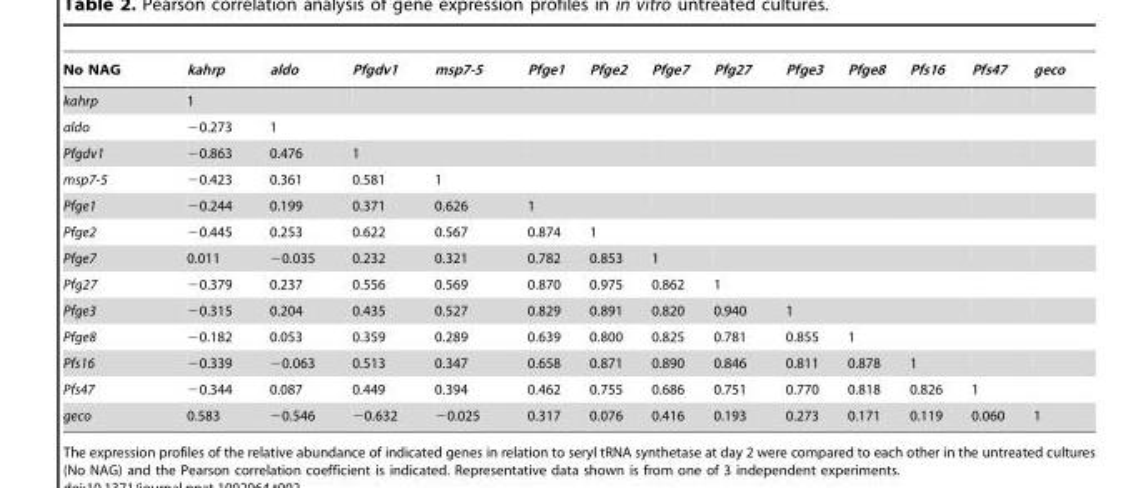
<table><thead><tr><td>No NAG</td><td>kahrp</td><td>aldo</td><td>Pfgdv1</td><td>msp7-5</td><td>Pfge1</td><td>Pfge2</td><td>Pfge7</td><td>Pfg27</td><td>Pfge3</td><td>Pfge8</td><td>Pfs16</td><td>Pfs47</td><td>geco</td></tr></thead><tbody><tr><td>kahrp</td><td>1</td><td></td><td></td><td></td><td></td><td></td><td></td><td></td><td></td><td></td><td></td><td></td><td></td></tr><tr><td>aldo</td><td>−0.273</td><td>1</td><td></td><td></td><td></td><td></td><td></td><td></td><td></td><td></td><td></td><td></td><td></td></tr><tr><td>Pfgdv1</td><td>−0.863</td><td>0.476</td><td>1</td><td></td><td></td><td></td><td></td><td></td><td></td><td></td><td></td><td></td><td></td></tr><tr><td>msp7-5</td><td>−0.423</td><td>0.361</td><td>0.581</td><td>1</td><td></td><td></td><td></td><td></td><td></td><td></td><td></td><td></td><td></td></tr><tr><td>Pfge1</td><td>−0.244</td><td>0.199</td><td>0.371</td><td>0.626</td><td>1</td><td></td><td></td><td></td><td></td><td></td><td></td><td></td><td></td></tr><tr><td>Pfge2</td><td>−0.445</td><td>0.253</td><td>0.622</td><td>0.567</td><td>0.874</td><td>1</td><td></td><td></td><td></td><td></td><td></td><td></td><td></td></tr><tr><td>Pfge7</td><td>0.011</td><td>−0.035</td><td>0.232</td><td>0.321</td><td>0.782</td><td>0.853</td><td>1</td><td></td><td></td><td></td><td></td><td></td><td></td></tr><tr><td>Pfg27</td><td>−0.379</td><td>0.237</td><td>0.556</td><td>0.569</td><td>0.870</td><td>0.975</td><td>0.862</td><td>1</td><td></td><td></td><td></td><td></td><td></td></tr><tr><td>Pfge3</td><td>−0.315</td><td>0.204</td><td>0.435</td><td>0.527</td><td>0.829</td><td>0.891</td><td>0.820</td><td>0.940</td><td>1</td><td></td><td></td><td></td><td></td></tr><tr><td>Pfge8</td><td>−0.182</td><td>0.053</td><td>0.359</td><td>0.289</td><td>0.639</td><td>0.800</td><td>0.825</td><td>0.781</td><td>0.855</td><td>1</td><td></td><td></td><td></td></tr><tr><td>Pfs16</td><td>−0.339</td><td>−0.063</td><td>0.513</td><td>0.347</td><td>0.658</td><td>0.871</td><td>0.890</td><td>0.846</td><td>0.811</td><td>0.878</td><td>1</td><td></td><td></td></tr><tr><td>Pfs47</td><td>−0.344</td><td>0.087</td><td>0.449</td><td>0.394</td><td>0.462</td><td>0.755</td><td>0.686</td><td>0.751</td><td>0.770</td><td>0.818</td><td>0.826</td><td>1</td><td></td></tr><tr><td>geco</td><td>0.583</td><td>−0.546</td><td>−0.632</td><td>−0.025</td><td>0.317</td><td>0.076</td><td>0.416</td><td>0.193</td><td>0.273</td><td>0.171</td><td>0.119</td><td>0.060</td><td>1</td></tr></tbody></table>